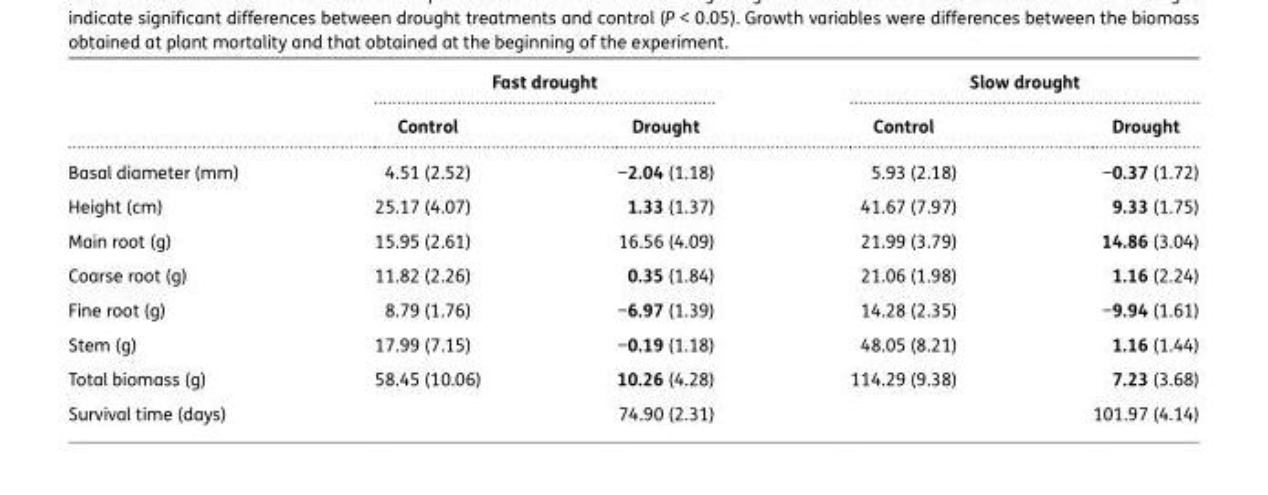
<table><thead><tr><td rowspan="2"></td><td colspan="2">Fast drought</td><td colspan="2">Slow drought</td></tr><tr><td>Control</td><td>Drought</td><td>Control</td><td>Drought</td></tr></thead><tbody><tr><td>Basal diameter (mm)</td><td>4.51 (2.52)</td><td>−2.04 (1.18)</td><td>5.93 (2.18)</td><td>−0.37 (1.72)</td></tr><tr><td>Height (cm)</td><td>25.17 (4.07)</td><td>1.33 (1.37)</td><td>41.67 (7.97)</td><td>9.33 (1.75)</td></tr><tr><td>Main root (g)</td><td>15.95 (2.61)</td><td>16.56 (4.09)</td><td>21.99 (3.79)</td><td>14.86 (3.04)</td></tr><tr><td>Coarse root (g)</td><td>11.82 (2.26)</td><td>0.35 (1.84)</td><td>21.06 (1.98)</td><td>1.16 (2.24)</td></tr><tr><td>Fine root (g)</td><td>8.79 (1.76)</td><td>−6.97 (1.39)</td><td>14.28 (2.35)</td><td>−9.94 (1.61)</td></tr><tr><td>Stem (g)</td><td>17.99 (7.15)</td><td>−0.19 (1.18)</td><td>48.05 (8.21)</td><td>1.16 (1.44)</td></tr><tr><td>Total biomass (g)</td><td>58.45 (10.06)</td><td>10.26 (4.28)</td><td>114.29 (9.38)</td><td>7.23 (3.68)</td></tr><tr><td>Survival time (days)</td><td></td><td>74.90 (2.31)</td><td></td><td>101.97 (4.14)</td></tr></tbody></table>